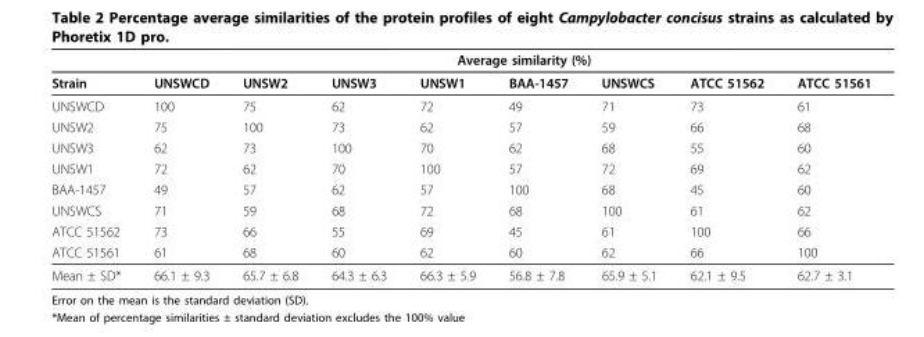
<table><thead><tr><td rowspan="2">Strain</td><td colspan="8">Average similarity (%)</td></tr><tr><td>UNSWCD</td><td>UNSW2</td><td>UNSW3</td><td>UNSW1</td><td>BAA-1457</td><td>UNSWCS</td><td>ATCC 51562</td><td>ATCC 51561</td></tr></thead><tbody><tr><td>UNSWCD</td><td>100</td><td>75</td><td>62</td><td>72</td><td>49</td><td>71</td><td>73</td><td>61</td></tr><tr><td>UNSW2</td><td>75</td><td>100</td><td>73</td><td>62</td><td>57</td><td>59</td><td>66</td><td>68</td></tr><tr><td>UNSW3</td><td>62</td><td>73</td><td>100</td><td>70</td><td>62</td><td>68</td><td>55</td><td>60</td></tr><tr><td>UNSW1</td><td>72</td><td>62</td><td>70</td><td>100</td><td>57</td><td>72</td><td>69</td><td>62</td></tr><tr><td>BAA-1457</td><td>49</td><td>57</td><td>62</td><td>57</td><td>100</td><td>68</td><td>45</td><td>60</td></tr><tr><td>UNSWCS</td><td>71</td><td>59</td><td>68</td><td>72</td><td>68</td><td>100</td><td>61</td><td>62</td></tr><tr><td>ATCC 51562</td><td>73</td><td>66</td><td>55</td><td>69</td><td>45</td><td>61</td><td>100</td><td>66</td></tr><tr><td>ATCC 51561</td><td>61</td><td>68</td><td>60</td><td>62</td><td>60</td><td>62</td><td>66</td><td>100</td></tr><tr><td>Mean ± SD*</td><td>66.1 ± 9.3</td><td>65.7 ± 6.8</td><td>64.3 ± 6.3</td><td>66.3 ± 5.9</td><td>56.8 ± 7.8</td><td>65.9 ± 5.1</td><td>62.1 ± 9.5</td><td>62.7 ± 3.1</td></tr></tbody></table>